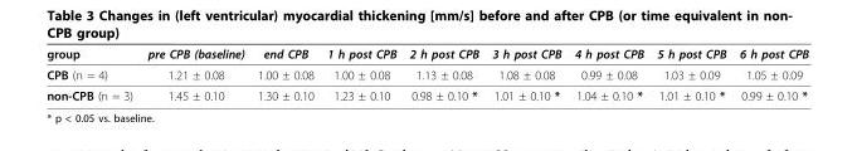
<table><thead><tr><td>group</td><td>pre CPB (baseline)</td><td>end CPB</td><td>1 h post CPB</td><td>2 h post CPB</td><td>3 h post CPB</td><td>4 h post CPB</td><td>5 h post CPB</td><td>6 h post CPB</td></tr></thead><tbody><tr><td>CPB (n = 4)</td><td>1.21 ± 0.08</td><td>1.00 ± 0.08</td><td>1.00 ± 0.08</td><td>1.13 ± 0.08</td><td>1.08 ± 0.08</td><td>0.99 ± 0.08</td><td>1.03 ± 0.09</td><td>1.05 ± 0.09</td></tr><tr><td>non-CPB (n = 3)</td><td>1.45 ± 0.10</td><td>1.30 ± 0.10</td><td>1.23 ± 0.10</td><td>0.98 ± 0.10 *</td><td>1.01 ± 0.10 *</td><td>1.04 ± 0.10 *</td><td>1.01 ± 0.10 *</td><td>0.99 ± 0.10 *</td></tr></tbody></table>